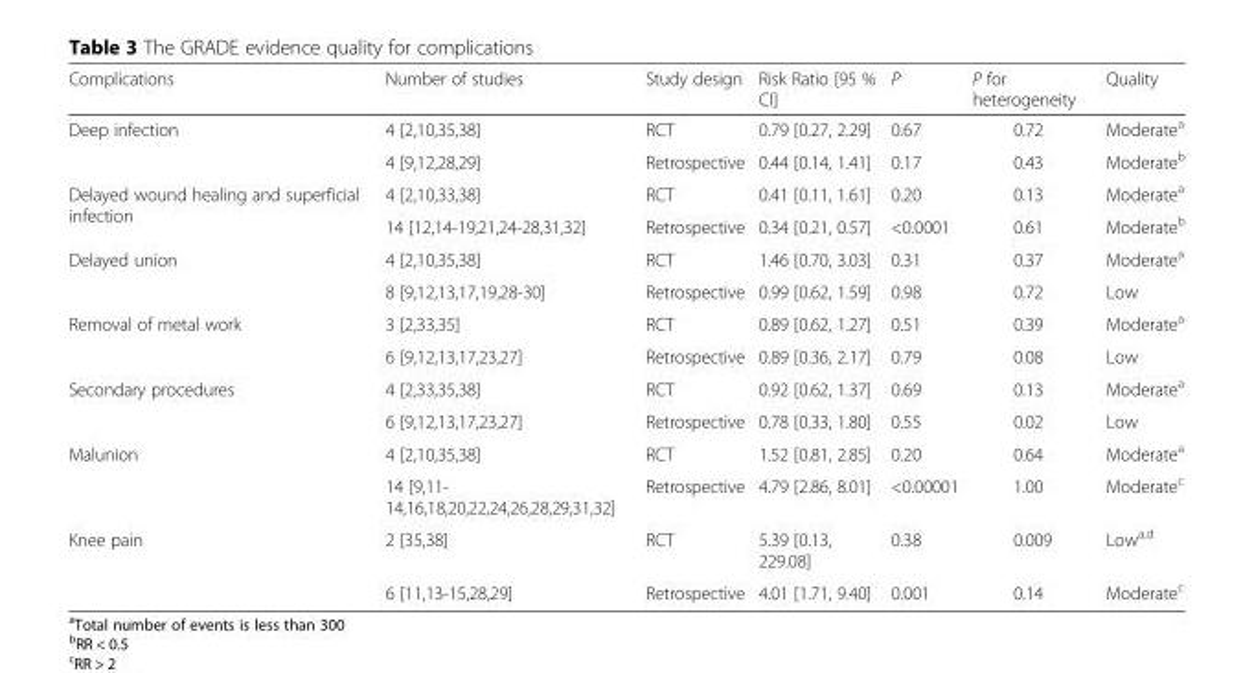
<table><thead><tr><td>Complications</td><td>Number of studies</td><td>Study design</td><td>Risk Ratio [95 % CI]</td><td>P</td><td>P for heterogeneity</td><td>Quality</td></tr></thead><tbody><tr><td rowspan="2">Deep infection</td><td>4 [2,10,35,38]</td><td>RCT</td><td>0.79 [0.27, 2.29]</td><td>0.67</td><td>0.72</td><td>Moderate<sup>a</sup></td></tr><tr><td>4 [9,12,28,29]</td><td>Retrospective</td><td>0.44 [0.14, 1.41]</td><td>0.17</td><td>0.43</td><td>Moderate<sup>b</sup></td></tr><tr><td rowspan="2">Delayed wound healing and superficial infection</td><td>4 [2,10,33,38]</td><td>RCT</td><td>0.41 [0.11, 1.61]</td><td>0.20</td><td>0.13</td><td>Moderate<sup>a</sup></td></tr><tr><td>14 [12,14-19,21,24-28,31,32]</td><td>Retrospective</td><td>0.34 [0.21, 0.57]</td><td>&lt;0.0001</td><td>0.61</td><td>Moderate<sup>b</sup></td></tr><tr><td rowspan="2">Delayed union</td><td>4 [2,10,35,38]</td><td>RCT</td><td>1.46 [0.70, 3.03]</td><td>0.31</td><td>0.37</td><td>Moderate<sup>a</sup></td></tr><tr><td>8 [9,12,13,17,19,28-30]</td><td>Retrospective</td><td>0.99 [0.62, 1.59]</td><td>0.98</td><td>0.72</td><td>Low</td></tr><tr><td rowspan="2">Removal of metal work</td><td>3 [2,33,35]</td><td>RCT</td><td>0.89 [0.62, 1.27]</td><td>0.51</td><td>0.39</td><td>Moderate<sup>a</sup></td></tr><tr><td>6 [9,12,13,17,23,27]</td><td>Retrospective</td><td>0.89 [0.36, 2.17]</td><td>0.79</td><td>0.08</td><td>Low</td></tr><tr><td rowspan="2">Secondary procedures</td><td>4 [2,33,35,38]</td><td>RCT</td><td>0.92 [0.62, 1.37]</td><td>0.69</td><td>0.13</td><td>Moderate<sup>a</sup></td></tr><tr><td>6 [9,12,13,17,23,27]</td><td>Retrospective</td><td>0.78 [0.33, 1.80]</td><td>0.55</td><td>0.02</td><td>Low</td></tr><tr><td rowspan="2">Malunion</td><td>4 [2,10,35,38]</td><td>RCT</td><td>1.52 [0.81, 2.85]</td><td>0.20</td><td>0.64</td><td>Moderate<sup>a</sup></td></tr><tr><td>14 [9,11- 14,16,18,20,22,24,26,28,29,31,32]</td><td>Retrospective</td><td>4.79 [2.86, 8.01]</td><td>&lt;0.00001</td><td>1.00</td><td>Moderate<sup>c</sup></td></tr><tr><td rowspan="2">Knee pain</td><td>2 [35,38]</td><td>RCT</td><td>5.39 [0.13, 229.08]</td><td>0.38</td><td>0.009</td><td>Low<sup>a,d</sup></td></tr><tr><td>6 [11,13-15,28,29]</td><td>Retrospective</td><td>4.01 [1.71, 9.40]</td><td>0.001</td><td>0.14</td><td>Moderate<sup>c</sup></td></tr></tbody></table>